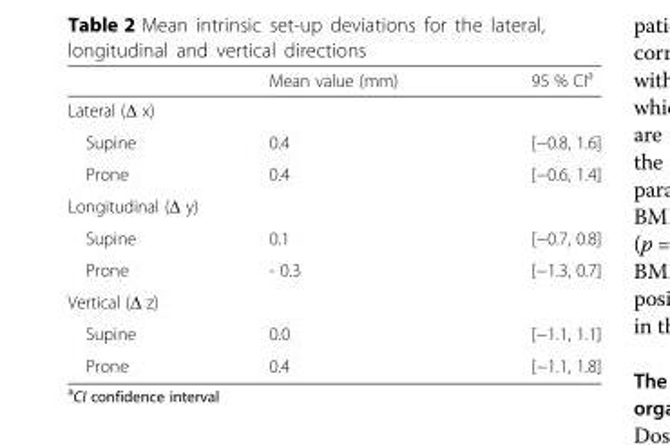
<table><thead><tr><td></td><td>Mean value (mm)</td><td>95 % CI<sup>a</sup></td></tr></thead><tbody><tr><td colspan="3">Lateral (Δ x)</td></tr><tr><td>Supine</td><td>0.4</td><td>[−0.8, 1.6]</td></tr><tr><td>Prone</td><td>0.4</td><td>[−0.6, 1.4]</td></tr><tr><td colspan="3">Longitudinal (Δ y)</td></tr><tr><td>Supine</td><td>0.1</td><td>[−0.7, 0.8]</td></tr><tr><td>Prone</td><td>- 0.3</td><td>[−1.3, 0.7]</td></tr><tr><td colspan="3">Vertical (Δ z)</td></tr><tr><td>Supine</td><td>0.0</td><td>[−1.1, 1.1]</td></tr><tr><td>Prone</td><td>0.4</td><td>[−1.1, 1.8]</td></tr></tbody></table>